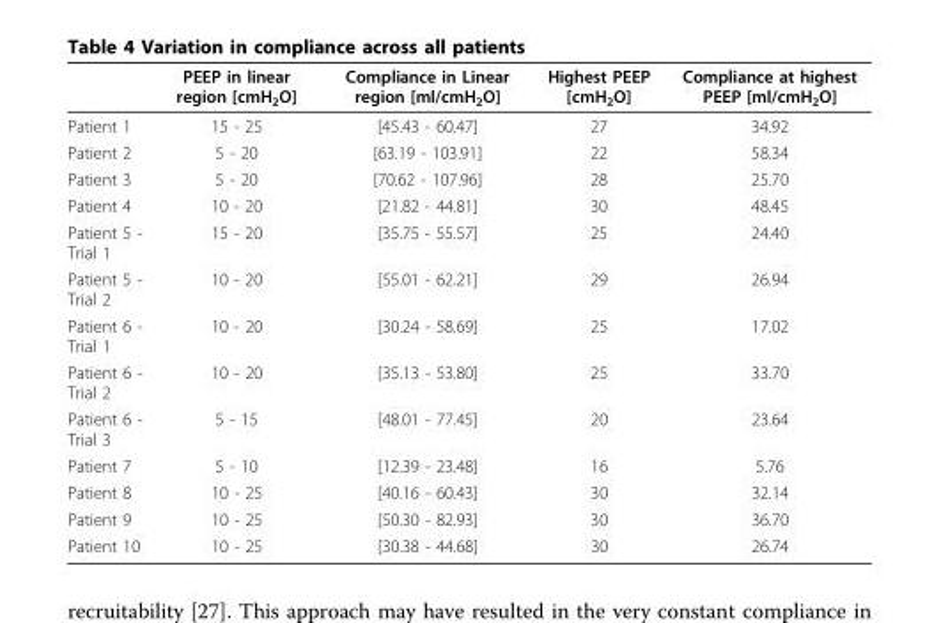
<table><thead><tr><td></td><td>PEEP in linear region [cmH<sub>2</sub>O]</td><td>Compliance in Linear region [ml/cmH<sub>2</sub>O]</td><td>Highest PEEP [cmH<sub>2</sub>O]</td><td>Compliance at highest PEEP [ml/cmH<sub>2</sub>O]</td></tr></thead><tbody><tr><td>Patient 1</td><td>15 - 25</td><td>[45.43 - 60.47]</td><td>27</td><td>34.92</td></tr><tr><td>Patient 2</td><td>5 - 20</td><td>[63.19 - 103.91]</td><td>22</td><td>58.34</td></tr><tr><td>Patient 3</td><td>5 - 20</td><td>[70.62 - 107.96]</td><td>28</td><td>25.70</td></tr><tr><td>Patient 4</td><td>10 - 20</td><td>[21.82 - 44.81]</td><td>30</td><td>48.45</td></tr><tr><td>Patient 5 - Trial 1</td><td>15 - 20</td><td>[35.75 - 55.57]</td><td>25</td><td>24.40</td></tr><tr><td>Patient 5 - Trial 2</td><td>10 - 20</td><td>[55.01 - 62.21]</td><td>29</td><td>26.94</td></tr><tr><td>Patient 6 - Trial 1</td><td>10 - 20</td><td>[30.24 - 58.69]</td><td>25</td><td>17.02</td></tr><tr><td>Patient 6 - Trial 2</td><td>10 - 20</td><td>[35.13 - 53.80]</td><td>25</td><td>33.70</td></tr><tr><td>Patient 6 - Trial 3</td><td>5 - 15</td><td>[48.01 - 77.45]</td><td>20</td><td>23.64</td></tr><tr><td>Patient 7</td><td>5 - 10</td><td>[12.39 - 23.48]</td><td>16</td><td>5.76</td></tr><tr><td>Patient 8</td><td>10 - 25</td><td>[40.16 - 60.43]</td><td>30</td><td>32.14</td></tr><tr><td>Patient 9</td><td>10 - 25</td><td>[50.30 - 82.93]</td><td>30</td><td>36.70</td></tr><tr><td>Patient 10</td><td>10 - 25</td><td>[30.38 - 44.68]</td><td>30</td><td>26.74</td></tr></tbody></table>